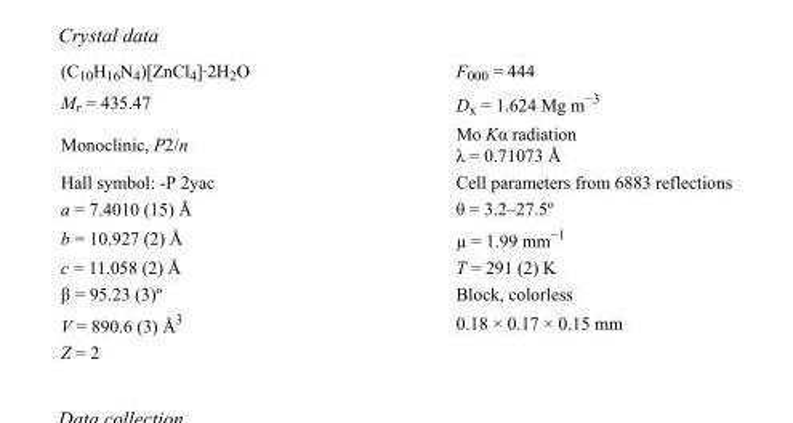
<table><tbody><tr><td>(C<sub>10</sub>H<sub>16</sub>N<sub>4</sub>)[ZnCl<sub>4</sub>]·2H<sub>2</sub>O</td><td>F<sub>000</sub> = 444</td></tr><tr><td>M<sub>r</sub> = 435.47</td><td>D<sub>x</sub> = 1.624 Mg m<sup>−3</sup></td></tr><tr><td>Monoclinic, P2/n</td><td>Mo Kα radiation λ = 0.71073 Å</td></tr><tr><td>Hall symbol: -P 2yac</td><td>Cell parameters from 6883 reflections</td></tr><tr><td>a = 7.4010 (15) Å</td><td>θ = 3.2–27.5º</td></tr><tr><td>b = 10.927 (2) Å</td><td>µ = 1.99 mm<sup>−1</sup></td></tr><tr><td>c = 11.058 (2) Å</td><td>T = 291 (2) K</td></tr><tr><td>β = 95.23 (3)º</td><td>Block, colorless</td></tr><tr><td>V = 890.6 (3) Å<sup>3</sup></td><td>0.18 × 0.17 × 0.15 mm</td></tr><tr><td>Z = 2</td><td></td></tr></tbody></table>